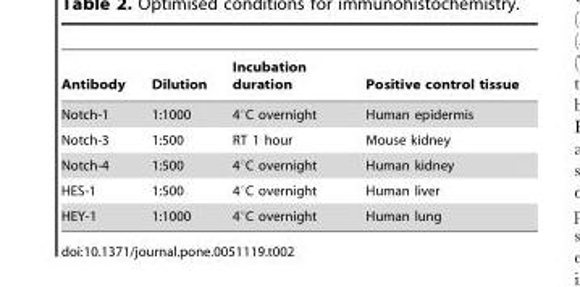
<table><thead><tr><td>Antibody</td><td>Dilution</td><td>Incubation duration</td><td>Positive control tissue</td></tr></thead><tbody><tr><td>Notch-1</td><td>1:1000</td><td>4°C overnight</td><td>Human epidermis</td></tr><tr><td>Notch-3</td><td>1:500</td><td>RT 1 hour</td><td>Mouse kidney</td></tr><tr><td>Notch-4</td><td>1:500</td><td>4°C overnight</td><td>Human kidney</td></tr><tr><td>HES-1</td><td>1:500</td><td>4°C overnight</td><td>Human liver</td></tr><tr><td>HEY-1</td><td>1:1000</td><td>4°C overnight</td><td>Human lung</td></tr></tbody></table>